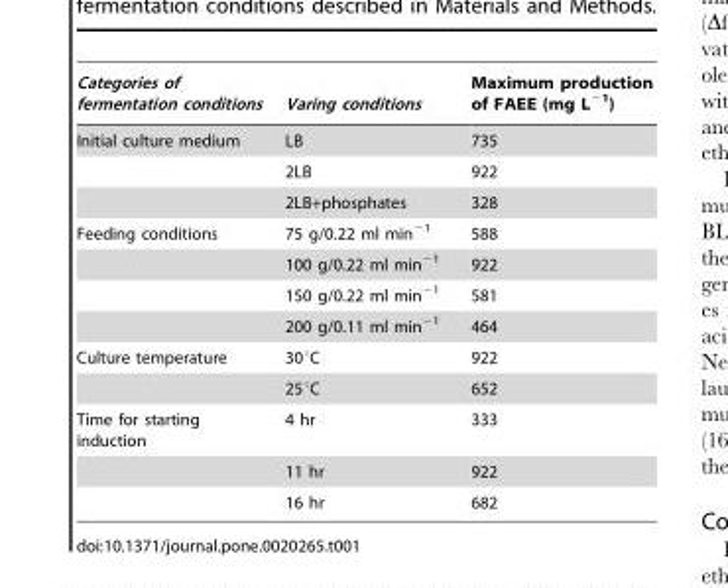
<table><thead><tr><td>Categories of fermentation conditions</td><td>Varing conditions</td><td>Maximum production of FAEE (mg L<sup>−1</sup>)</td></tr></thead><tbody><tr><td rowspan="3">Initial culture medium</td><td>LB</td><td>735</td></tr><tr><td>2LB</td><td>922</td></tr><tr><td>2LB+phosphates</td><td>328</td></tr><tr><td rowspan="4">Feeding conditions</td><td>75 g/0.22 ml min<sup>−1</sup></td><td>588</td></tr><tr><td>100 g/0.22 ml min<sup>−1</sup></td><td>922</td></tr><tr><td>150 g/0.22 ml min<sup>−1</sup></td><td>581</td></tr><tr><td>200 g/0.11 ml min<sup>−1</sup></td><td>464</td></tr><tr><td rowspan="2">Culture temperature</td><td>30°C</td><td>922</td></tr><tr><td>25°C</td><td>652</td></tr><tr><td rowspan="3">Time for starting induction</td><td>4 hr</td><td>333</td></tr><tr><td>11 hr</td><td>922</td></tr><tr><td>16 hr</td><td>682</td></tr></tbody></table>